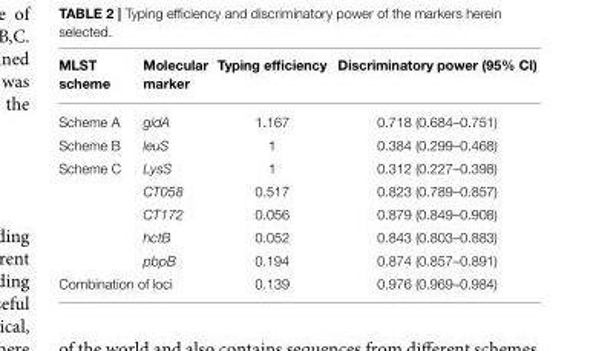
<table><thead><tr><td>MLST scheme</td><td>Molecular marker</td><td>Typing efficiency</td><td>Discriminatory power (95% CI)</td></tr></thead><tbody><tr><td>Scheme A</td><td>gidA</td><td>1.167</td><td>0.718 (0.684–0.751)</td></tr><tr><td>Scheme B</td><td>leuS</td><td>1</td><td>0.384 (0.299–0.468)</td></tr><tr><td rowspan="5">Scheme C</td><td>LysS</td><td>1</td><td>0.312 (0.227–0.398)</td></tr><tr><td>CT058</td><td>0.517</td><td>0.823 (0.789–0.857)</td></tr><tr><td>CT172</td><td>0.056</td><td>0.879 (0.849–0.908)</td></tr><tr><td>hctB</td><td>0.052</td><td>0.843 (0.803–0.883)</td></tr><tr><td>pbpB</td><td>0.194</td><td>0.874 (0.857–0.891)</td></tr><tr><td colspan="2">Combination of loci</td><td>0.139</td><td>0.976 (0.969–0.984)</td></tr></tbody></table>